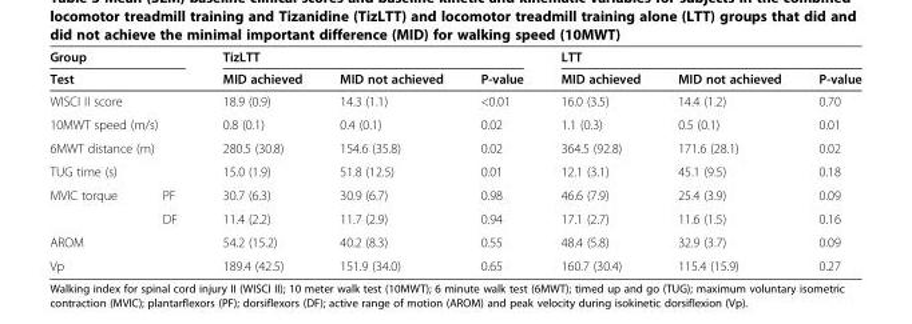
<table><thead><tr><td rowspan="2" colspan="2">Group Test</td><td colspan="3">TizLTT</td><td colspan="3">LTT</td></tr><tr><td>MID achieved</td><td>MID not achieved</td><td>P-value</td><td>MID achieved</td><td>MID not achieved</td><td>P-value</td></tr></thead><tbody><tr><td colspan="2">WISCI II score</td><td>18.9 (0.9)</td><td>14.3 (1.1)</td><td>&lt;0.01</td><td>16.0 (3.5)</td><td>14.4 (1.2)</td><td>0.70</td></tr><tr><td colspan="2">10MWT speed (m/s)</td><td>0.8 (0.1)</td><td>0.4 (0.1)</td><td>0.02</td><td>1.1 (0.3)</td><td>0.5 (0.1)</td><td>0.01</td></tr><tr><td colspan="2">6MWT distance (m)</td><td>280.5 (30.8)</td><td>154.6 (35.8)</td><td>0.02</td><td>364.5 (92.8)</td><td>171.6 (28.1)</td><td>0.02</td></tr><tr><td colspan="2">TUG time (s)</td><td>15.0 (1.9)</td><td>51.8 (12.5)</td><td>0.01</td><td>12.1 (3.1)</td><td>45.1 (9.5)</td><td>0.18</td></tr><tr><td rowspan="2">MVIC torque</td><td>PF</td><td>30.7 (6.3)</td><td>30.9 (6.7)</td><td>0.98</td><td>46.6 (7.9)</td><td>25.4 (3.9)</td><td>0.09</td></tr><tr><td>DF</td><td>11.4 (2.2)</td><td>11.7 (2.9)</td><td>0.94</td><td>17.1 (2.7)</td><td>11.6 (1.5)</td><td>0.16</td></tr><tr><td colspan="2">AROM</td><td>54.2 (15.2)</td><td>40.2 (8.3)</td><td>0.55</td><td>48.4 (5.8)</td><td>32.9 (3.7)</td><td>0.09</td></tr><tr><td colspan="2">Vp</td><td>189.4 (42.5)</td><td>151.9 (34.0)</td><td>0.65</td><td>160.7 (30.4)</td><td>115.4 (15.9)</td><td>0.27</td></tr></tbody></table>